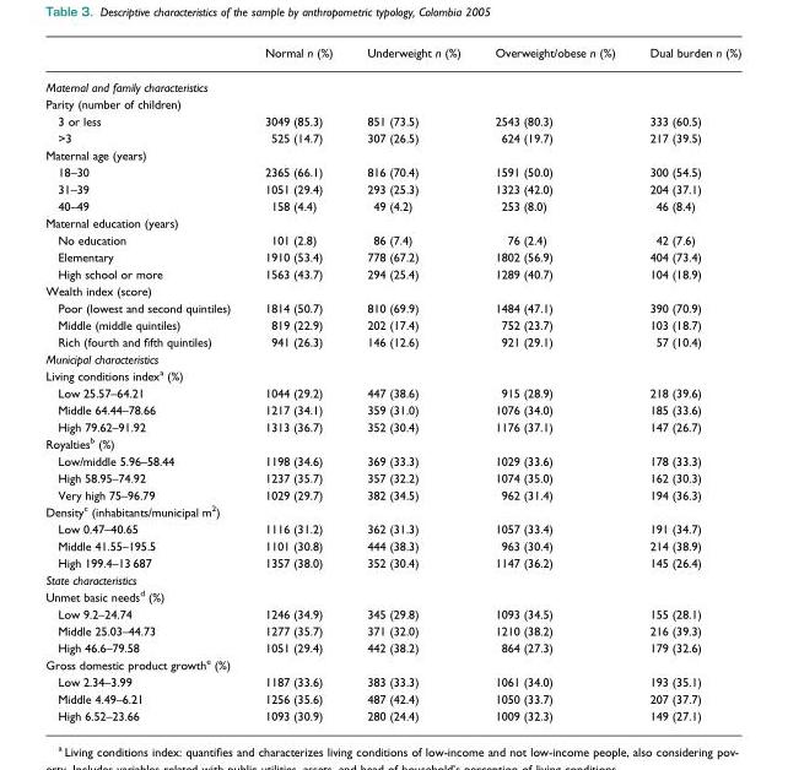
<table><thead><tr><td></td><td>Normal n (%)</td><td>Underweight n (%)</td><td>Overweight/obese n (%)</td><td>Dual burden n (%)</td></tr></thead><tbody><tr><td colspan="5">Maternal and family characteristics</td></tr><tr><td colspan="5">Parity (number of children)</td></tr><tr><td>3 or less</td><td>3049 (85.3)</td><td>851 (73.5)</td><td>2543 (80.3)</td><td>333 (60.5)</td></tr><tr><td>&gt;3</td><td>525 (14.7)</td><td>307 (26.5)</td><td>624 (19.7)</td><td>217 (39.5)</td></tr><tr><td colspan="5">Maternal age (years)</td></tr><tr><td>18–30</td><td>2365 (66.1)</td><td>816 (70.4)</td><td>1591 (50.0)</td><td>300 (54.5)</td></tr><tr><td>31–39</td><td>1051 (29.4)</td><td>293 (25.3)</td><td>1323 (42.0)</td><td>204 (37.1)</td></tr><tr><td>40–49</td><td>158 (4.4)</td><td>49 (4.2)</td><td>253 (8.0)</td><td>46 (8.4)</td></tr><tr><td colspan="5">Maternal education (years)</td></tr><tr><td>No education</td><td>101 (2.8)</td><td>86 (7.4)</td><td>76 (2.4)</td><td>42 (7.6)</td></tr><tr><td>Elementary</td><td>1910 (53.4)</td><td>778 (67.2)</td><td>1802 (56.9)</td><td>404 (73.4)</td></tr><tr><td>High school or more</td><td>1563 (43.7)</td><td>294 (25.4)</td><td>1289 (40.7)</td><td>104 (18.9)</td></tr><tr><td colspan="5">Wealth index (score)</td></tr><tr><td>Poor (lowest and second quintiles)</td><td>1814 (50.7)</td><td>810 (69.9)</td><td>1484 (47.1)</td><td>390 (70.9)</td></tr><tr><td>Middle (middle quintiles)</td><td>819 (22.9)</td><td>202 (17.4)</td><td>752 (23.7)</td><td>103 (18.7)</td></tr><tr><td>Rich (fourth and fifth quintiles)</td><td>941 (26.3)</td><td>146 (12.6)</td><td>921 (29.1)</td><td>57 (10.4)</td></tr><tr><td colspan="5">Municipal characteristics</td></tr><tr><td colspan="5">Living conditions index<sup>a</sup> (%)</td></tr><tr><td>Low 25.57–64.21</td><td>1044 (29.2)</td><td>447 (38.6)</td><td>915 (28.9)</td><td>218 (39.6)</td></tr><tr><td>Middle 64.44–78.66</td><td>1217 (34.1)</td><td>359 (31.0)</td><td>1076 (34.0)</td><td>185 (33.6)</td></tr><tr><td>High 79.62–91.92</td><td>1313 (36.7)</td><td>352 (30.4)</td><td>1176 (37.1)</td><td>147 (26.7)</td></tr><tr><td colspan="5">Royalties<sup>b</sup> (%)</td></tr><tr><td>Low/middle 5.96–58.44</td><td>1198 (34.6)</td><td>369 (33.3)</td><td>1029 (33.6)</td><td>178 (33.3)</td></tr><tr><td>High 58.95–74.92</td><td>1237 (35.7)</td><td>357 (32.2)</td><td>1074 (35.0)</td><td>162 (30.3)</td></tr><tr><td>Very high 75–96.79</td><td>1029 (29.7)</td><td>382 (34.5)</td><td>962 (31.4)</td><td>194 (36.3)</td></tr><tr><td colspan="5">Density<sup>c</sup> (inhabitants/municipal m<sup>2</sup>)</td></tr><tr><td>Low 0.47–40.65</td><td>1116 (31.2)</td><td>362 (31.3)</td><td>1057 (33.4)</td><td>191 (34.7)</td></tr><tr><td>Middle 41.55–195.5</td><td>1101 (30.8)</td><td>444 (38.3)</td><td>963 (30.4)</td><td>214 (38.9)</td></tr><tr><td>High 199.4–13 687</td><td>1357 (38.0)</td><td>352 (30.4)</td><td>1147 (36.2)</td><td>145 (26.4)</td></tr><tr><td colspan="5">State characteristics</td></tr><tr><td colspan="5">Unmet basic needs<sup>d</sup> (%)</td></tr><tr><td>Low 9.2–24.74</td><td>1246 (34.9)</td><td>345 (29.8)</td><td>1093 (34.5)</td><td>155 (28.1)</td></tr><tr><td>Middle 25.03–44.73</td><td>1277 (35.7)</td><td>371 (32.0)</td><td>1210 (38.2)</td><td>216 (39.3)</td></tr><tr><td>High 46.6–79.58</td><td>1051 (29.4)</td><td>442 (38.2)</td><td>864 (27.3)</td><td>179 (32.6)</td></tr><tr><td colspan="5">Gross domestic product growth<sup>e</sup> (%)</td></tr><tr><td>Low 2.34–3.99</td><td>1187 (33.6)</td><td>383 (33.3)</td><td>1061 (34.0)</td><td>193 (35.1)</td></tr><tr><td>Middle 4.49–6.21</td><td>1256 (35.6)</td><td>487 (42.4)</td><td>1050 (33.7)</td><td>207 (37.7)</td></tr><tr><td>High 6.52–23.66</td><td>1093 (30.9)</td><td>280 (24.4)</td><td>1009 (32.3)</td><td>149 (27.1)</td></tr></tbody></table>